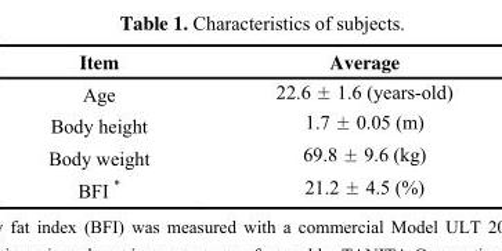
<table><thead><tr><td>Item</td><td>Average</td></tr></thead><tbody><tr><td>Age</td><td>22.6 ± 1.6 (years-old)</td></tr><tr><td>Body height</td><td>1.7 ± 0.05 (m)</td></tr><tr><td>Body weight</td><td>69.8 ± 9.6 (kg)</td></tr><tr><td>BFI *</td><td>21.2 ± 4.5 (%)</td></tr></tbody></table>